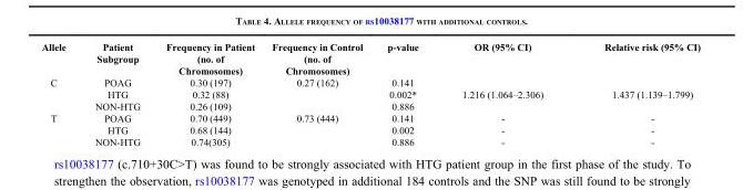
<table><thead><tr><td>Allele</td><td>Patient Subgroup</td><td>Frequency in Patient (no. of Chromosomes)</td><td>Frequency in Control (no. of Chromosomes)</td><td>p-value</td><td>OR (95% CI)</td><td>Relative risk (95% CI)</td></tr></thead><tbody><tr><td rowspan="3">C</td><td>POAG</td><td>0.30 (197)</td><td>0.27 (162)</td><td>0.141</td><td></td><td></td></tr><tr><td>HTG</td><td>0.32 (88)</td><td></td><td>0.002*</td><td>1.216 (1.064–2.306)</td><td>1.437 (1.139–1.799)</td></tr><tr><td>NON-HTG</td><td>0.26 (109)</td><td></td><td>0.886</td><td></td><td></td></tr><tr><td rowspan="3">T</td><td>POAG</td><td>0.70 (449)</td><td>0.73 (444)</td><td>0.141</td><td>-</td><td>-</td></tr><tr><td>HTG</td><td>0.68 (144)</td><td></td><td>0.002</td><td>-</td><td>-</td></tr><tr><td>NON-HTG</td><td>0.74(305)</td><td></td><td>0.886</td><td>-</td><td>-</td></tr></tbody></table>